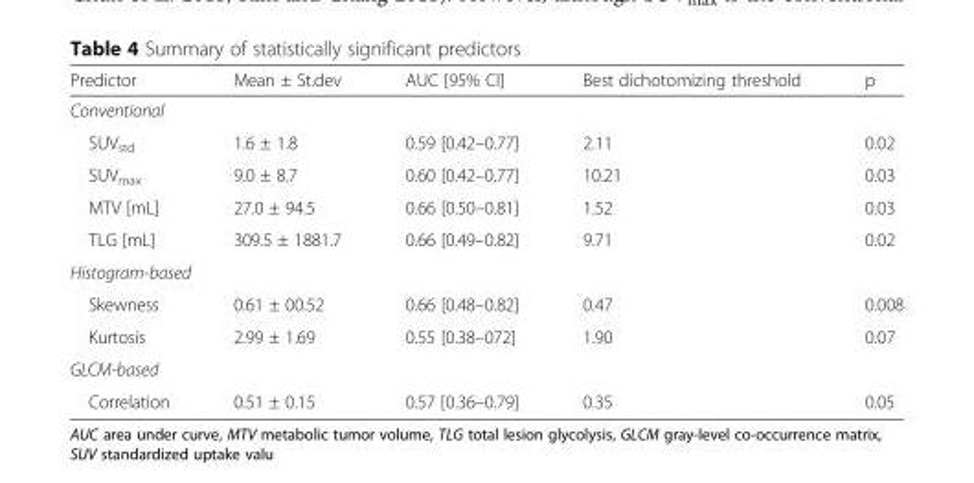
<table><thead><tr><td>Predictor</td><td>Mean ± St.dev</td><td>AUC [95% CI]</td><td>Best dichotomizing threshold</td><td>p</td></tr></thead><tbody><tr><td colspan="5">Conventional</td></tr><tr><td>SUV<sub>std</sub></td><td>1.6 ± 1.8</td><td>0.59 [0.42–0.77]</td><td>2.11</td><td>0.02</td></tr><tr><td>SUV<sub>max</sub></td><td>9.0 ± 8.7</td><td>0.60 [0.42–0.77]</td><td>10.21</td><td>0.03</td></tr><tr><td>MTV [mL]</td><td>27.0 ± 94.5</td><td>0.66 [0.50–0.81]</td><td>1.52</td><td>0.03</td></tr><tr><td>TLG [mL]</td><td>309.5 ± 1881.7</td><td>0.66 [0.49–0.82]</td><td>9.71</td><td>0.02</td></tr><tr><td colspan="5">Histogram-based</td></tr><tr><td>Skewness</td><td>0.61 ± 00.52</td><td>0.66 [0.48–0.82]</td><td>0.47</td><td>0.008</td></tr><tr><td>Kurtosis</td><td>2.99 ± 1.69</td><td>0.55 [0.38–072]</td><td>1.90</td><td>0.07</td></tr><tr><td colspan="5">GLCM-based</td></tr><tr><td>Correlation</td><td>0.51 ± 0.15</td><td>0.57 [0.36–0.79]</td><td>0.35</td><td>0.05</td></tr></tbody></table>